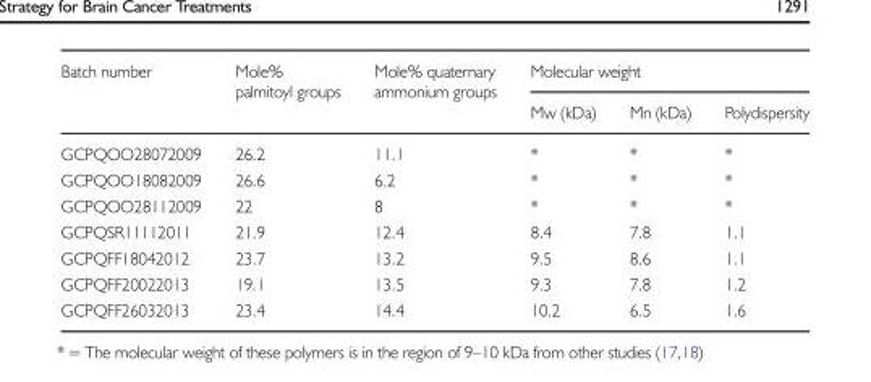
<table><thead><tr><td rowspan="2">Batch number</td><td rowspan="2">Mole% palmitoyl groups</td><td rowspan="2">Mole% quaternary ammonium groups</td><td colspan="3">Molecular weight</td></tr><tr><td>Mw (kDa)</td><td>Mn (kDa)</td><td>Polydispersity</td></tr></thead><tbody><tr><td>GCPQOO28072009</td><td>26.2</td><td>11.1</td><td>*</td><td>*</td><td>*</td></tr><tr><td>GCPQOO18082009</td><td>26.6</td><td>6.2</td><td>*</td><td>*</td><td>*</td></tr><tr><td>GCPQOO28112009</td><td>22</td><td>8</td><td>*</td><td>*</td><td>*</td></tr><tr><td>GCPQSR11112011</td><td>21.9</td><td>12.4</td><td>8.4</td><td>7.8</td><td>1.1</td></tr><tr><td>GCPQFF18042012</td><td>23.7</td><td>13.2</td><td>9.5</td><td>8.6</td><td>1.1</td></tr><tr><td>GCPQFF20022013</td><td>19.1</td><td>13.5</td><td>9.3</td><td>7.8</td><td>1.2</td></tr><tr><td>GCPQFF26032013</td><td>23.4</td><td>14.4</td><td>10.2</td><td>6.5</td><td>1.6</td></tr></tbody></table>